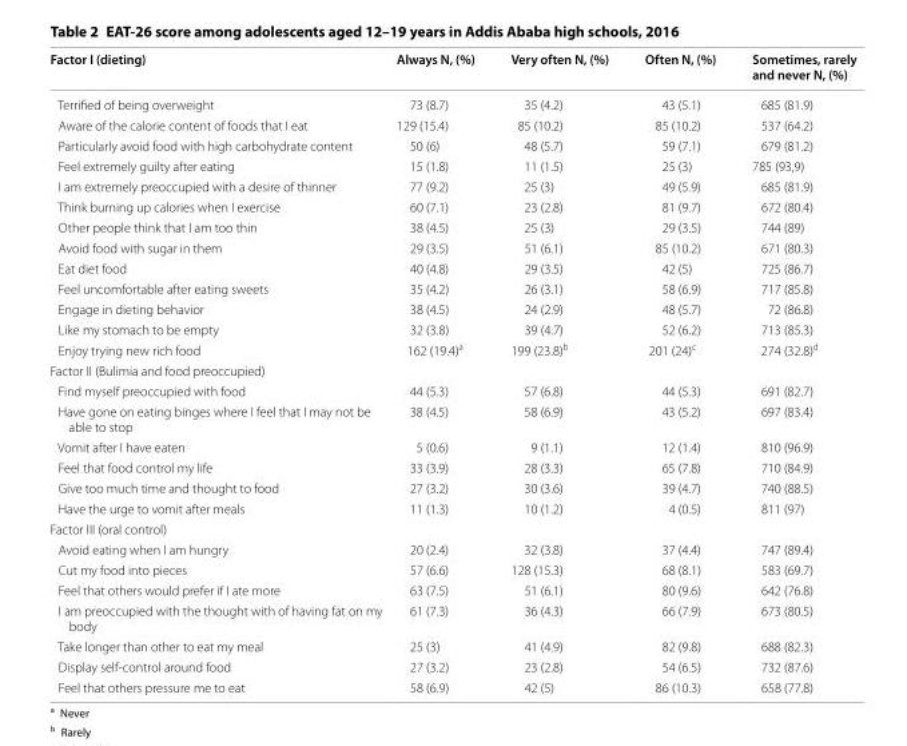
<table><thead><tr><td>Factor I (dieting)</td><td>Always N, (%)</td><td>Very often N, (%)</td><td>Often N, (%)</td><td>Sometimes, rarely and never N, (%)</td></tr></thead><tbody><tr><td>Terrified of being overweight</td><td>73 (8.7)</td><td>35 (4.2)</td><td>43 (5.1)</td><td>685 (81.9)</td></tr><tr><td>Aware of the calorie content of foods that I eat</td><td>129 (15.4)</td><td>85 (10.2)</td><td>85 (10.2)</td><td>537 (64.2)</td></tr><tr><td>Particularly avoid food with high carbohydrate content</td><td>50 (6)</td><td>48 (5.7)</td><td>59 (7.1)</td><td>679 (81.2)</td></tr><tr><td>Feel extremely guilty after eating</td><td>15 (1.8)</td><td>11 (1.5)</td><td>25 (3)</td><td>785 (93,9)</td></tr><tr><td>I am extremely preoccupied with a desire of thinner</td><td>77 (9.2)</td><td>25 (3)</td><td>49 (5.9)</td><td>685 (81.9)</td></tr><tr><td>Think burning up calories when I exercise</td><td>60 (7.1)</td><td>23 (2.8)</td><td>81 (9.7)</td><td>672 (80.4)</td></tr><tr><td>Other people think that I am too thin</td><td>38 (4.5)</td><td>25 (3)</td><td>29 (3.5)</td><td>744 (89)</td></tr><tr><td>Avoid food with sugar in them</td><td>29 (3.5)</td><td>51 (6.1)</td><td>85 (10.2)</td><td>671 (80.3)</td></tr><tr><td>Eat diet food</td><td>40 (4.8)</td><td>29 (3.5)</td><td>42 (5)</td><td>725 (86.7)</td></tr><tr><td>Feel uncomfortable after eating sweets</td><td>35 (4.2)</td><td>26 (3.1)</td><td>58 (6.9)</td><td>717 (85.8)</td></tr><tr><td>Engage in dieting behavior</td><td>38 (4.5)</td><td>24 (2.9)</td><td>48 (5.7)</td><td>72 (86.8)</td></tr><tr><td>Like my stomach to be empty</td><td>32 (3.8)</td><td>39 (4.7)</td><td>52 (6.2)</td><td>713 (85.3)</td></tr><tr><td>Enjoy trying new rich food</td><td>162 (19.4)<sup>a</sup></td><td>199 (23.8)<sup>b</sup></td><td>201 (24)<sup>c</sup></td><td>274 (32.8)<sup>d</sup></td></tr><tr><td colspan="5">Factor II (Bulimia and food preoccupied)</td></tr><tr><td>Find myself preoccupied with food</td><td>44 (5.3)</td><td>57 (6.8)</td><td>44 (5.3)</td><td>691 (82.7)</td></tr><tr><td>Have gone on eating binges where I feel that I may not be able to stop</td><td>38 (4.5)</td><td>58 (6.9)</td><td>43 (5.2)</td><td>697 (83.4)</td></tr><tr><td>Vomit after I have eaten</td><td>5 (0.6)</td><td>9 (1.1)</td><td>12 (1.4)</td><td>810 (96.9)</td></tr><tr><td>Feel that food control my life</td><td>33 (3.9)</td><td>28 (3.3)</td><td>65 (7.8)</td><td>710 (84.9)</td></tr><tr><td>Give too much time and thought to food</td><td>27 (3.2)</td><td>30 (3.6)</td><td>39 (4.7)</td><td>740 (88.5)</td></tr><tr><td>Have the urge to vomit after meals</td><td>11 (1.3)</td><td>10 (1.2)</td><td>4 (0.5)</td><td>811 (97)</td></tr><tr><td colspan="5">Factor III (oral control)</td></tr><tr><td>Avoid eating when I am hungry</td><td>20 (2.4)</td><td>32 (3.8)</td><td>37 (4.4)</td><td>747 (89.4)</td></tr><tr><td>Cut my food into pieces</td><td>57 (6.6)</td><td>128 (15.3)</td><td>68 (8.1)</td><td>583 (69.7)</td></tr><tr><td>Feel that others would prefer if I ate more</td><td>63 (7.5)</td><td>51 (6.1)</td><td>80 (9.6)</td><td>642 (76.8)</td></tr><tr><td>I am preoccupied with the thought with of having fat on my body</td><td>61 (7.3)</td><td>36 (4.3)</td><td>66 (7.9)</td><td>673 (80.5)</td></tr><tr><td>Take longer than other to eat my meal</td><td>25 (3)</td><td>41 (4.9)</td><td>82 (9.8)</td><td>688 (82.3)</td></tr><tr><td>Display self-control around food</td><td>27 (3.2)</td><td>23 (2.8)</td><td>54 (6.5)</td><td>732 (87.6)</td></tr><tr><td>Feel that others pressure me to eat</td><td>58 (6.9)</td><td>42 (5)</td><td>86 (10.3)</td><td>658 (77.8)</td></tr></tbody></table>